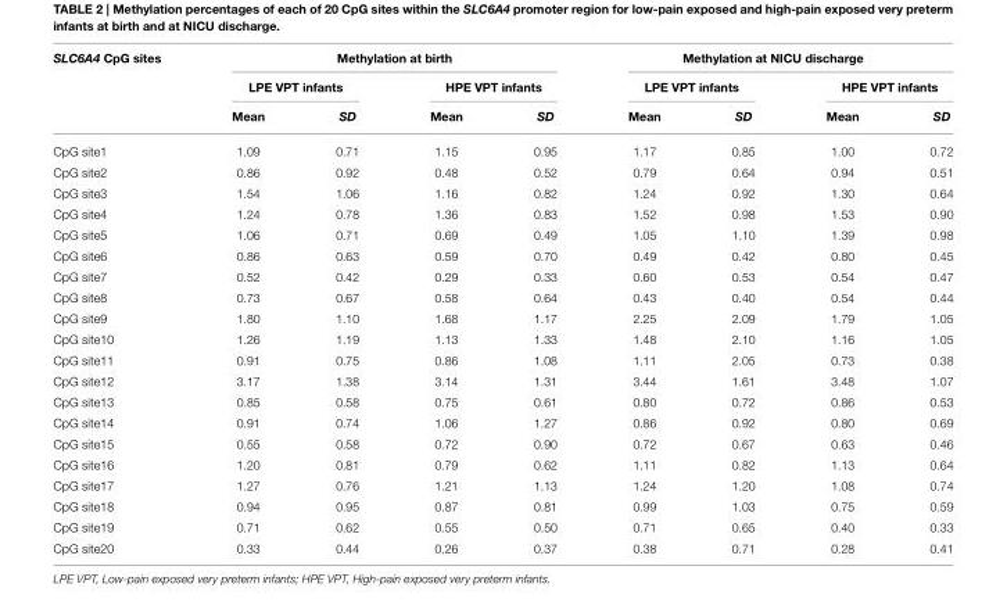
<table><thead><tr><td rowspan="3">SLC6A4 CpG sites</td><td colspan="4">Methylation at birth</td><td colspan="4">Methylation at NICU discharge</td></tr><tr><td colspan="2">LPE VPT infants</td><td colspan="2">HPE VPT infants</td><td colspan="2">LPE VPT infants</td><td colspan="2">HPE VPT infants</td></tr><tr><td>Mean</td><td>SD</td><td>Mean</td><td>SD</td><td>Mean</td><td>SD</td><td>Mean</td><td>SD</td></tr></thead><tbody><tr><td>CpG site1</td><td>1.09</td><td>0.71</td><td>1.15</td><td>0.95</td><td>1.17</td><td>0.85</td><td>1.00</td><td>0.72</td></tr><tr><td>CpG site2</td><td>0.86</td><td>0.92</td><td>0.48</td><td>0.52</td><td>0.79</td><td>0.64</td><td>0.94</td><td>0.51</td></tr><tr><td>CpG site3</td><td>1.54</td><td>1.06</td><td>1.16</td><td>0.82</td><td>1.24</td><td>0.92</td><td>1.30</td><td>0.64</td></tr><tr><td>CpG site4</td><td>1.24</td><td>0.78</td><td>1.36</td><td>0.83</td><td>1.52</td><td>0.98</td><td>1.53</td><td>0.90</td></tr><tr><td>CpG site5</td><td>1.06</td><td>0.71</td><td>0.69</td><td>0.49</td><td>1.05</td><td>1.10</td><td>1.39</td><td>0.98</td></tr><tr><td>CpG site6</td><td>0.86</td><td>0.63</td><td>0.59</td><td>0.70</td><td>0.49</td><td>0.42</td><td>0.80</td><td>0.45</td></tr><tr><td>CpG site7</td><td>0.52</td><td>0.42</td><td>0.29</td><td>0.33</td><td>0.60</td><td>0.53</td><td>0.54</td><td>0.47</td></tr><tr><td>CpG site8</td><td>0.73</td><td>0.67</td><td>0.58</td><td>0.64</td><td>0.43</td><td>0.40</td><td>0.54</td><td>0.44</td></tr><tr><td>CpG site9</td><td>1.80</td><td>1.10</td><td>1.68</td><td>1.17</td><td>2.25</td><td>2.09</td><td>1.79</td><td>1.05</td></tr><tr><td>CpG site10</td><td>1.26</td><td>1.19</td><td>1.13</td><td>1.33</td><td>1.48</td><td>2.10</td><td>1.16</td><td>1.05</td></tr><tr><td>CpG site11</td><td>0.91</td><td>0.75</td><td>0.86</td><td>1.08</td><td>1.11</td><td>2.05</td><td>0.73</td><td>0.38</td></tr><tr><td>CpG site12</td><td>3.17</td><td>1.38</td><td>3.14</td><td>1.31</td><td>3.44</td><td>1.61</td><td>3.48</td><td>1.07</td></tr><tr><td>CpG site13</td><td>0.85</td><td>0.58</td><td>0.75</td><td>0.61</td><td>0.80</td><td>0.72</td><td>0.86</td><td>0.53</td></tr><tr><td>CpG site14</td><td>0.91</td><td>0.74</td><td>1.06</td><td>1.27</td><td>0.86</td><td>0.92</td><td>0.80</td><td>0.69</td></tr><tr><td>CpG site15</td><td>0.55</td><td>0.58</td><td>0.72</td><td>0.90</td><td>0.72</td><td>0.67</td><td>0.63</td><td>0.46</td></tr><tr><td>CpG site16</td><td>1.20</td><td>0.81</td><td>0.79</td><td>0.62</td><td>1.11</td><td>0.82</td><td>1.13</td><td>0.64</td></tr><tr><td>CpG site17</td><td>1.27</td><td>0.76</td><td>1.21</td><td>1.13</td><td>1.24</td><td>1.20</td><td>1.08</td><td>0.74</td></tr><tr><td>CpG site18</td><td>0.94</td><td>0.95</td><td>0.87</td><td>0.81</td><td>0.99</td><td>1.03</td><td>0.75</td><td>0.59</td></tr><tr><td>CpG site19</td><td>0.71</td><td>0.62</td><td>0.55</td><td>0.50</td><td>0.71</td><td>0.65</td><td>0.40</td><td>0.33</td></tr><tr><td>CpG site20</td><td>0.33</td><td>0.44</td><td>0.26</td><td>0.37</td><td>0.38</td><td>0.71</td><td>0.28</td><td>0.41</td></tr></tbody></table>